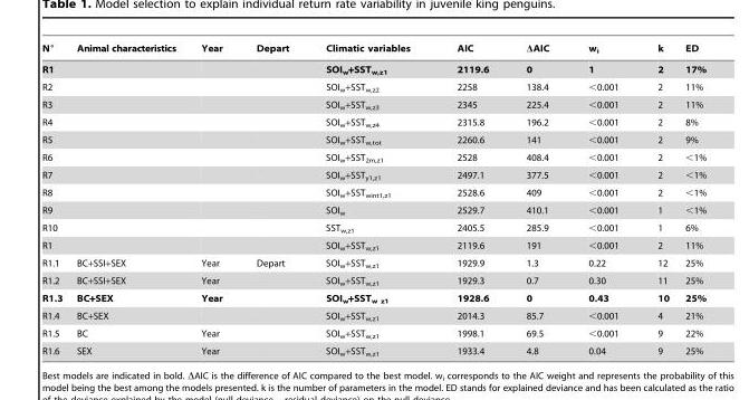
<table><thead><tr><td>N°</td><td>Animal characteristics</td><td>Year</td><td>Depart</td><td>Climatic variables</td><td>AIC</td><td>ΔAIC</td><td>w<sub>i</sub></td><td>k</td><td>ED</td></tr></thead><tbody><tr><td>R1</td><td></td><td></td><td></td><td>SOI<sub>w</sub>+SST<sub>w,z1</sub></td><td>2119.6</td><td>0</td><td>1</td><td>2</td><td>17%</td></tr><tr><td>R2</td><td></td><td></td><td></td><td>SOI<sub>w</sub>+SST<sub>w,z2</sub></td><td>2258</td><td>138.4</td><td>&lt;0.001</td><td>2</td><td>11%</td></tr><tr><td>R3</td><td></td><td></td><td></td><td>SOI<sub>w</sub>+SST<sub>w,z3</sub></td><td>2345</td><td>225.4</td><td>&lt;0.001</td><td>2</td><td>11%</td></tr><tr><td>R4</td><td></td><td></td><td></td><td>SOI<sub>w</sub>+SST<sub>w,z4</sub></td><td>2315.8</td><td>196.2</td><td>&lt;0.001</td><td>2</td><td>8%</td></tr><tr><td>R5</td><td></td><td></td><td></td><td>SOI<sub>w</sub>+SST<sub>w,tot</sub></td><td>2260.6</td><td>141</td><td>&lt;0.001</td><td>2</td><td>9%</td></tr><tr><td>R6</td><td></td><td></td><td></td><td>SOI<sub>w</sub>+SST<sub>2m,z1</sub></td><td>2528</td><td>408.4</td><td>&lt;0.001</td><td>2</td><td>&lt;1%</td></tr><tr><td>R7</td><td></td><td></td><td></td><td>SOI<sub>w</sub>+SST<sub>y1,z1</sub></td><td>2497.1</td><td>377.5</td><td>&lt;0.001</td><td>2</td><td>&lt;1%</td></tr><tr><td>R8</td><td></td><td></td><td></td><td>SOI<sub>w</sub>+SST<sub>wint1,z1</sub></td><td>2528.6</td><td>409</td><td>&lt;0.001</td><td>2</td><td>&lt;1%</td></tr><tr><td>R9</td><td></td><td></td><td></td><td>SOI<sub>w</sub></td><td>2529.7</td><td>410.1</td><td>&lt;0.001</td><td>1</td><td>&lt;1%</td></tr><tr><td>R10</td><td></td><td></td><td></td><td>SST<sub>w,z1</sub></td><td>2405.5</td><td>285.9</td><td>&lt;0.001</td><td>1</td><td>6%</td></tr><tr><td>R1</td><td></td><td></td><td></td><td>SOI<sub>w</sub>+SST<sub>w,z1</sub></td><td>2119.6</td><td>191</td><td>&lt;0.001</td><td>2</td><td>11%</td></tr><tr><td>R1.1</td><td>BC+SSI+SEX</td><td>Year</td><td>Depart</td><td>SOI<sub>w</sub>+SST<sub>w,z1</sub></td><td>1929.9</td><td>1.3</td><td>0.22</td><td>12</td><td>25%</td></tr><tr><td>R1.2</td><td>BC+SSI+SEX</td><td>Year</td><td></td><td>SOI<sub>w</sub>+SST<sub>w,z1</sub></td><td>1929.3</td><td>0.7</td><td>0.30</td><td>11</td><td>25%</td></tr><tr><td>R1.3</td><td>BC+SEX</td><td>Year</td><td></td><td>SOI<sub>w</sub>+SST<sub>w z1</sub></td><td>1928.6</td><td>0</td><td>0.43</td><td>10</td><td>25%</td></tr><tr><td>R1.4</td><td>BC+SEX</td><td></td><td></td><td>SOI<sub>w</sub>+SST<sub>w,z1</sub></td><td>2014.3</td><td>85.7</td><td>&lt;0.001</td><td>4</td><td>21%</td></tr><tr><td>R1.5</td><td>BC</td><td>Year</td><td></td><td>SOI<sub>w</sub>+SST<sub>w,z1</sub></td><td>1998.1</td><td>69.5</td><td>&lt;0.001</td><td>9</td><td>22%</td></tr><tr><td>R1.6</td><td>SEX</td><td>Year</td><td></td><td>SOI<sub>w</sub>+SST<sub>w,z1</sub></td><td>1933.4</td><td>4.8</td><td>0.04</td><td>9</td><td>25%</td></tr></tbody></table>